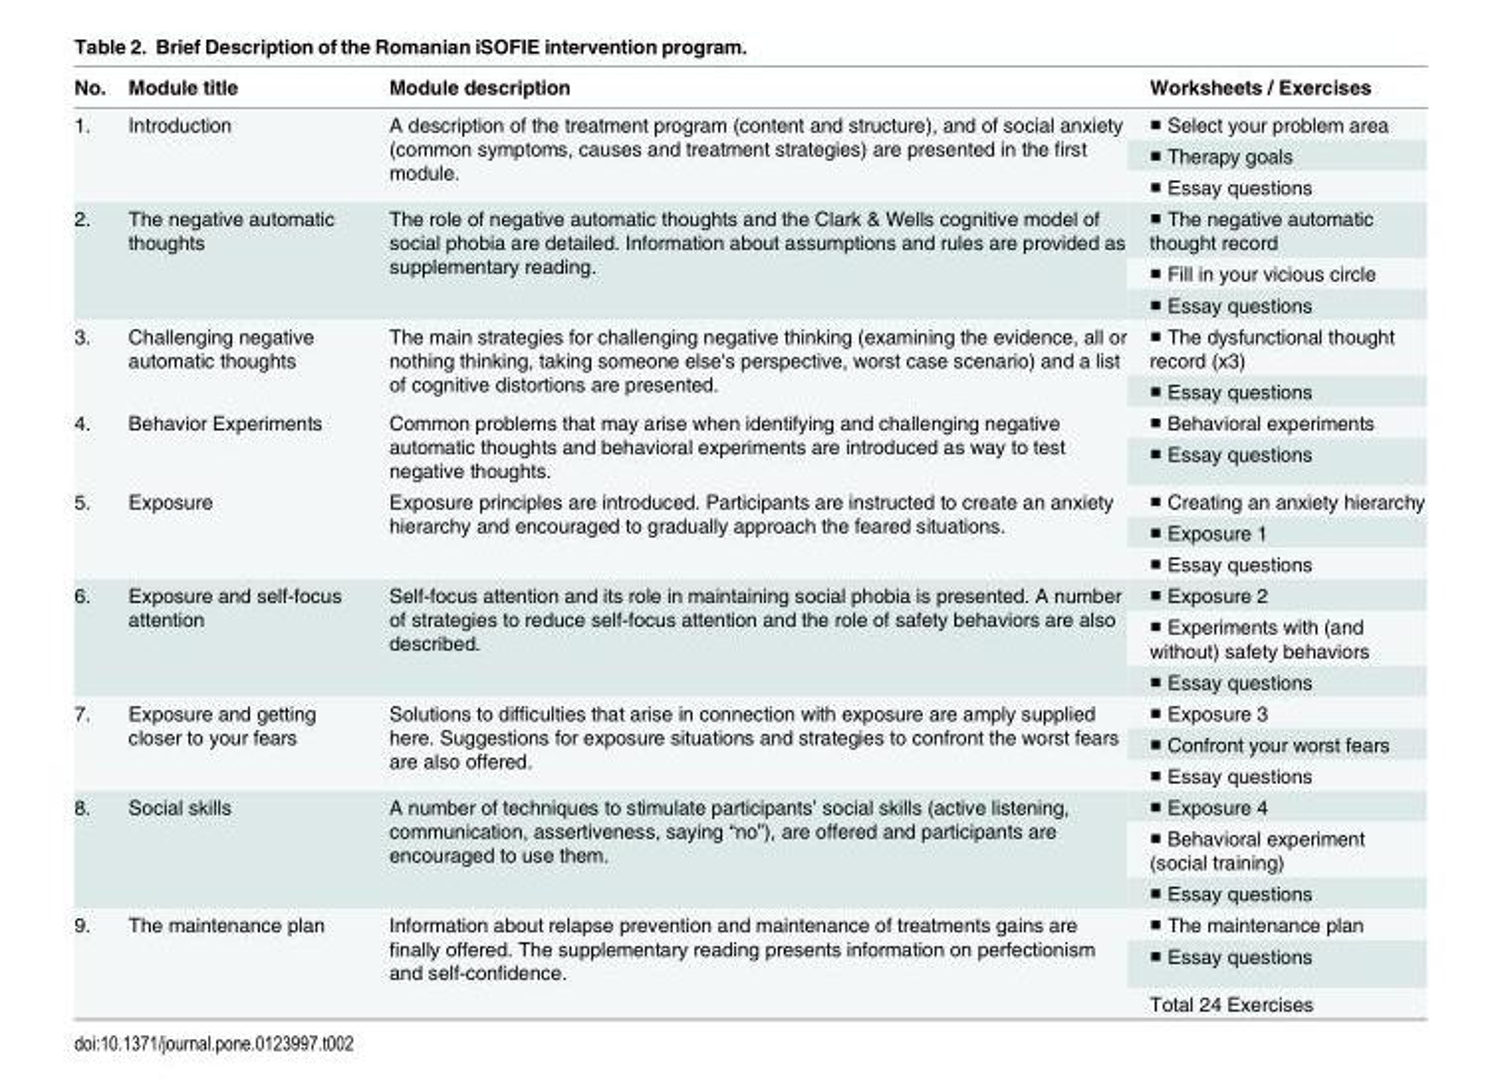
<table><thead><tr><td>No.</td><td>Module title</td><td>Module description</td><td>Worksheets / Exercises</td></tr></thead><tbody><tr><td rowspan="3">1.</td><td rowspan="3">Introduction</td><td rowspan="3">A description of the treatment program (content and structure), and of social anxiety (common symptoms, causes and treatment strategies) are presented in the first module.</td><td>■ Select your problem area</td></tr><tr><td>■ Therapy goals</td></tr><tr><td>■ Essay questions</td></tr><tr><td rowspan="3">2.</td><td rowspan="3">The negative automatic thoughts</td><td rowspan="3">The role of negative automatic thoughts and the Clark &amp; Wells cognitive model of social phobia are detailed. Information about assumptions and rules are provided as supplementary reading.</td><td>■ The negative automatic thought record</td></tr><tr><td>■ Fill in your vicious circle</td></tr><tr><td>■ Essay questions</td></tr><tr><td rowspan="2">3.</td><td rowspan="2">Challenging negative automatic thoughts</td><td rowspan="2">The main strategies for challenging negative thinking (examining the evidence, all or nothing thinking, taking someone else&#x27;s perspective, worst case scenario) and a list of cognitive distortions are presented.</td><td>■ The dysfunctional thought record (x3)</td></tr><tr><td>■ Essay questions</td></tr><tr><td rowspan="2">4.</td><td rowspan="2">Behavior Experiments</td><td rowspan="2">Common problems that may arise when identifying and challenging negative automatic thoughts and behavioral experiments are introduced as way to test negative thoughts.</td><td>■ Behavioral experiments</td></tr><tr><td>■ Essay questions</td></tr><tr><td rowspan="3">5.</td><td rowspan="3">Exposure</td><td rowspan="3">Exposure principles are introduced. Participants are instructed to create an anxiety hierarchy and encouraged to gradually approach the feared situations.</td><td>■ Creating an anxiety hierarchy</td></tr><tr><td>■ Exposure 1</td></tr><tr><td>■ Essay questions</td></tr><tr><td rowspan="3">6.</td><td rowspan="3">Exposure and self-focus attention</td><td rowspan="3">Self-focus attention and its role in maintaining social phobia is presented. A number of strategies to reduce self-focus attention and the role of safety behaviors are also described.</td><td>■ Exposure 2</td></tr><tr><td>■ Experiments with (and without) safety behaviors</td></tr><tr><td>■ Essay questions</td></tr><tr><td rowspan="3">7.</td><td rowspan="3">Exposure and getting closer to your fears</td><td rowspan="3">Solutions to difficulties that arise in connection with exposure are amply supplied here. Suggestions for exposure situations and strategies to confront the worst fears are also offered.</td><td>■ Exposure 3</td></tr><tr><td>■ Confront your worst fears</td></tr><tr><td>■ Essay questions</td></tr><tr><td rowspan="3">8.</td><td rowspan="3">Social skills</td><td rowspan="3">A number of techniques to stimulate participants’ social skills (active listening, communication, assertiveness, saying “no”), are offered and participants are encouraged to use them.</td><td>■ Exposure 4</td></tr><tr><td>■ Behavioral experiment (social training)</td></tr><tr><td>■ Essay questions</td></tr><tr><td rowspan="3">9.</td><td rowspan="2">The maintenance plan</td><td rowspan="2">Information about relapse prevention and maintenance of treatments gains are finally offered. The supplementary reading presents information on perfectionism and self-confidence.</td><td>■ The maintenance plan</td></tr><tr><td>■ Essay questions</td></tr><tr><td></td><td></td><td>Total 24 Exercises</td></tr></tbody></table>